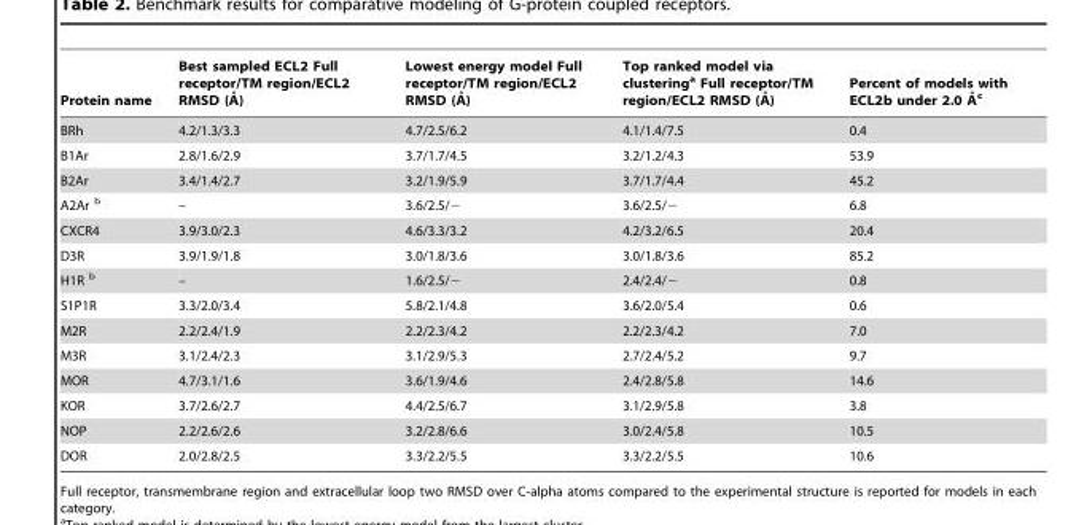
<table><thead><tr><td>Protein name</td><td>Best sampled ECL2 Full receptor/TM region/ECL2 RMSD (A˚ )</td><td>Lowest energy model Full receptor/TM region/ECL2 RMSD (A˚)</td><td>Top ranked model via clusteringa Full receptor/TM region/ECL2 RMSD (A˚)</td><td>Percent of models with ECL2b under 2.0 A˚ c</td></tr></thead><tbody><tr><td>BRh</td><td>4.2/1.3/3.3</td><td>4.7/2.5/6.2</td><td>4.1/1.4/7.5</td><td>0.4</td></tr><tr><td>B1Ar</td><td>2.8/1.6/2.9</td><td>3.7/1.7/4.5</td><td>3.2/1.2/4.3</td><td>53.9</td></tr><tr><td>B2Ar</td><td>3.4/1.4/2.7</td><td>3.2/1.9/5.9</td><td>3.7/1.7/4.4</td><td>45.2</td></tr><tr><td>A2Ar b</td><td>–</td><td>3.6/2.5/−</td><td>3.6/2.5/−</td><td>6.8</td></tr><tr><td>CXCR4</td><td>3.9/3.0/2.3</td><td>4.6/3.3/3.2</td><td>4.2/3.2/6.5</td><td>20.4</td></tr><tr><td>D3R</td><td>3.9/1.9/1.8</td><td>3.0/1.8/3.6</td><td>3.0/1.8/3.6</td><td>85.2</td></tr><tr><td>H1R b</td><td>–</td><td>1.6/2.5/−</td><td>2.4/2.4/−</td><td>0.8</td></tr><tr><td>S1P1R</td><td>3.3/2.0/3.4</td><td>5.8/2.1/4.8</td><td>3.6/2.0/5.4</td><td>0.6</td></tr><tr><td>M2R</td><td>2.2/2.4/1.9</td><td>2.2/2.3/4.2</td><td>2.2/2.3/4.2</td><td>7.0</td></tr><tr><td>M3R</td><td>3.1/2.4/2.3</td><td>3.1/2.9/5.3</td><td>2.7/2.4/5.2</td><td>9.7</td></tr><tr><td>MOR</td><td>4.7/3.1/1.6</td><td>3.6/1.9/4.6</td><td>2.4/2.8/5.8</td><td>14.6</td></tr><tr><td>KOR</td><td>3.7/2.6/2.7</td><td>4.4/2.5/6.7</td><td>3.1/2.9/5.8</td><td>3.8</td></tr><tr><td>NOP</td><td>2.2/2.6/2.6</td><td>3.2/2.8/6.6</td><td>3.0/2.4/5.8</td><td>10.5</td></tr><tr><td>DOR</td><td>2.0/2.8/2.5</td><td>3.3/2.2/5.5</td><td>3.3/2.2/5.5</td><td>10.6</td></tr></tbody></table>